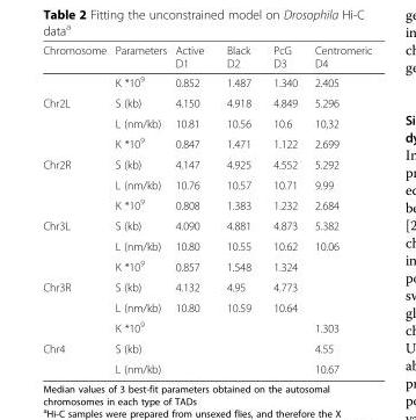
<table><thead><tr><td>Chromosome</td><td>Parameters</td><td>Active D1</td><td>Black D2</td><td>PcG D3</td><td>Centromeric D4</td></tr></thead><tbody><tr><td></td><td>K *10<sup>9</sup></td><td>0.852</td><td>1.487</td><td>1.340</td><td>2.405</td></tr><tr><td rowspan="3">Chr2L</td><td>S (kb)</td><td>4.150</td><td>4.918</td><td>4.849</td><td>5.296</td></tr><tr><td>L (nm/kb)</td><td>10.81</td><td>10.56</td><td>10.6</td><td>10,32</td></tr><tr><td>K *10<sup>9</sup></td><td>0.847</td><td>1.471</td><td>1.122</td><td>2.699</td></tr><tr><td rowspan="3">Chr2R</td><td>S (kb)</td><td>4.147</td><td>4.925</td><td>4.552</td><td>5.292</td></tr><tr><td>L (nm/kb)</td><td>10.76</td><td>10.57</td><td>10.71</td><td>9.99</td></tr><tr><td>K *10<sup>9</sup></td><td>0.808</td><td>1.383</td><td>1.232</td><td>2.684</td></tr><tr><td rowspan="3">Chr3L</td><td>S (kb)</td><td>4.090</td><td>4.881</td><td>4.873</td><td>5.382</td></tr><tr><td>L (nm/kb)</td><td>10.80</td><td>10.55</td><td>10.62</td><td>10.06</td></tr><tr><td>K *10<sup>9</sup></td><td>0.857</td><td>1.548</td><td>1.324</td><td></td></tr><tr><td rowspan="3">Chr3R</td><td>S (kb)</td><td>4.132</td><td>4.95</td><td>4.773</td><td></td></tr><tr><td>L (nm/kb)</td><td>10.80</td><td>10.59</td><td>10.64</td><td></td></tr><tr><td>K *10<sup>9</sup></td><td></td><td></td><td></td><td>1.303</td></tr><tr><td rowspan="2">Chr4</td><td>S (kb)</td><td></td><td></td><td></td><td>4.55</td></tr><tr><td>L (nm/kb)</td><td></td><td></td><td></td><td>10.67</td></tr></tbody></table>